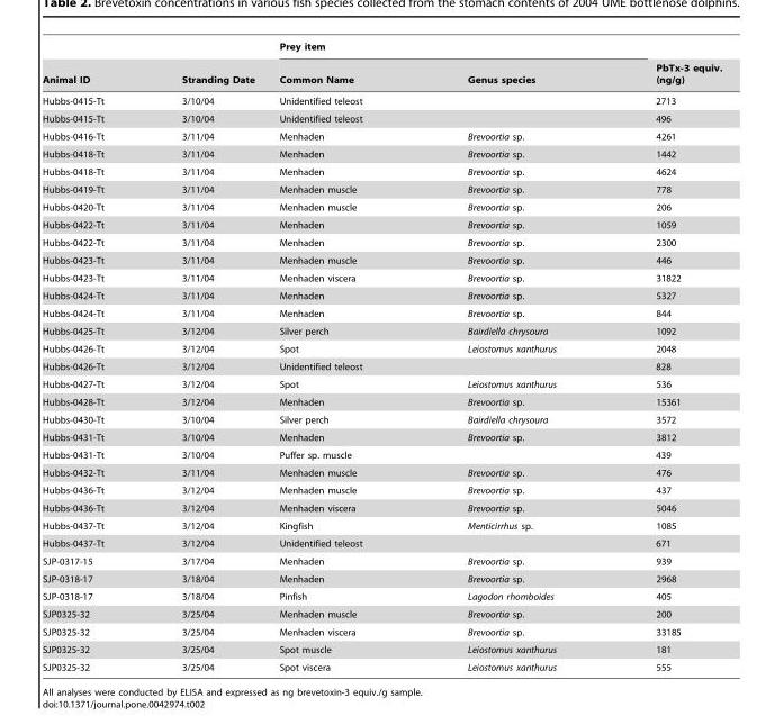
<table><thead><tr><td rowspan="2">Animal ID</td><td rowspan="2">Stranding Date</td><td colspan="2">Prey item</td><td rowspan="2">PbTx-3 equiv. (ng/g)</td></tr><tr><td>Common Name</td><td>Genus species</td></tr></thead><tbody><tr><td>Hubbs-0415-Tt</td><td>3/10/04</td><td>Unidentified teleost</td><td></td><td>2713</td></tr><tr><td>Hubbs-0415-Tt</td><td>3/10/04</td><td>Unidentified teleost</td><td></td><td>496</td></tr><tr><td>Hubbs-0416-Tt</td><td>3/11/04</td><td>Menhaden</td><td>Brevoortia sp.</td><td>4261</td></tr><tr><td>Hubbs-0418-Tt</td><td>3/11/04</td><td>Menhaden</td><td>Brevoortia sp.</td><td>1442</td></tr><tr><td>Hubbs-0418-Tt</td><td>3/11/04</td><td>Menhaden</td><td>Brevoortia sp.</td><td>4624</td></tr><tr><td>Hubbs-0419-Tt</td><td>3/11/04</td><td>Menhaden muscle</td><td>Brevoortia sp.</td><td>778</td></tr><tr><td>Hubbs-0420-Tt</td><td>3/11/04</td><td>Menhaden muscle</td><td>Brevoortia sp.</td><td>206</td></tr><tr><td>Hubbs-0422-Tt</td><td>3/11/04</td><td>Menhaden</td><td>Brevoortia sp.</td><td>1059</td></tr><tr><td>Hubbs-0422-Tt</td><td>3/11/04</td><td>Menhaden</td><td>Brevoortia sp.</td><td>2300</td></tr><tr><td>Hubbs-0423-Tt</td><td>3/11/04</td><td>Menhaden muscle</td><td>Brevoortia sp.</td><td>446</td></tr><tr><td>Hubbs-0423-Tt</td><td>3/11/04</td><td>Menhaden viscera</td><td>Brevoortia sp.</td><td>31822</td></tr><tr><td>Hubbs-0424-Tt</td><td>3/11/04</td><td>Menhaden</td><td>Brevoortia sp.</td><td>5327</td></tr><tr><td>Hubbs-0424-Tt</td><td>3/11/04</td><td>Menhaden</td><td>Brevoortia sp.</td><td>844</td></tr><tr><td>Hubbs-0425-Tt</td><td>3/12/04</td><td>Silver perch</td><td>Bairdiella chrysoura</td><td>1092</td></tr><tr><td>Hubbs-0426-Tt</td><td>3/12/04</td><td>Spot</td><td>Leiostomus xanthurus</td><td>2048</td></tr><tr><td>Hubbs-0426-Tt</td><td>3/12/04</td><td>Unidentified teleost</td><td></td><td>828</td></tr><tr><td>Hubbs-0427-Tt</td><td>3/12/04</td><td>Spot</td><td>Leiostomus xanthurus</td><td>536</td></tr><tr><td>Hubbs-0428-Tt</td><td>3/12/04</td><td>Menhaden</td><td>Brevoortia sp.</td><td>15361</td></tr><tr><td>Hubbs-0430-Tt</td><td>3/10/04</td><td>Silver perch</td><td>Bairdiella chrysoura</td><td>3572</td></tr><tr><td>Hubbs-0431-Tt</td><td>3/10/04</td><td>Menhaden</td><td>Brevoortia sp.</td><td>3812</td></tr><tr><td>Hubbs-0431-Tt</td><td>3/10/04</td><td>Puffer sp. muscle</td><td></td><td>439</td></tr><tr><td>Hubbs-0432-Tt</td><td>3/11/04</td><td>Menhaden muscle</td><td>Brevoortia sp.</td><td>476</td></tr><tr><td>Hubbs-0436-Tt</td><td>3/12/04</td><td>Menhaden muscle</td><td>Brevoortia sp.</td><td>437</td></tr><tr><td>Hubbs-0436-Tt</td><td>3/12/04</td><td>Menhaden viscera</td><td>Brevoortia sp.</td><td>5046</td></tr><tr><td>Hubbs-0437-Tt</td><td>3/12/04</td><td>Kingfish</td><td>Menticirrhus sp.</td><td>1085</td></tr><tr><td>Hubbs-0437-Tt</td><td>3/12/04</td><td>Unidentified teleost</td><td></td><td>671</td></tr><tr><td>SJP-0317-15</td><td>3/17/04</td><td>Menhaden</td><td>Brevoortia sp.</td><td>939</td></tr><tr><td>SJP-0318-17</td><td>3/18/04</td><td>Menhaden</td><td>Brevoortia sp.</td><td>2968</td></tr><tr><td>SJP-0318-17</td><td>3/18/04</td><td>Pinfish</td><td>Lagodon rhomboides</td><td>405</td></tr><tr><td>SJP0325-32</td><td>3/25/04</td><td>Menhaden muscle</td><td>Brevoortia sp.</td><td>200</td></tr><tr><td>SJP0325-32</td><td>3/25/04</td><td>Menhaden viscera</td><td>Brevoortia sp.</td><td>33185</td></tr><tr><td>SJP0325-32</td><td>3/25/04</td><td>Spot muscle</td><td>Leiostomus xanthurus</td><td>181</td></tr><tr><td>SJP0325-32</td><td>3/25/04</td><td>Spot viscera</td><td>Leiostomus xanthurus</td><td>555</td></tr></tbody></table>